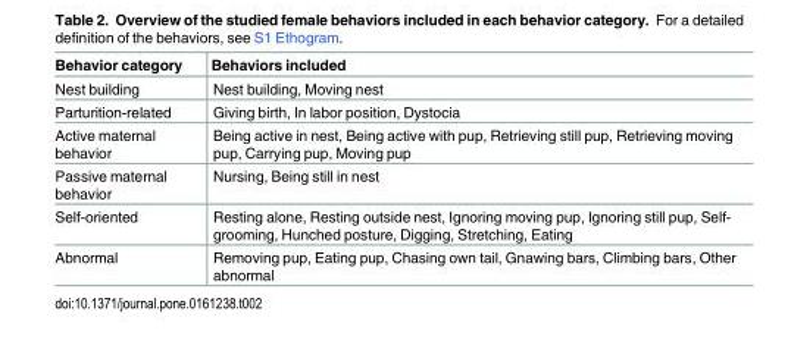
<table><thead><tr><td>Behavior category</td><td>Behaviors included</td></tr></thead><tbody><tr><td>Nest building</td><td>Nest building, Moving nest</td></tr><tr><td>Parturition-related</td><td>Giving birth, In labor position, Dystocia</td></tr><tr><td>Active maternal behavior</td><td>Being active in nest, Being active with pup, Retrieving still pup, Retrieving moving pup, Carrying pup, Moving pup</td></tr><tr><td>Passive maternal behavior</td><td>Nursing, Being still in nest</td></tr><tr><td>Self-oriented</td><td>Resting alone, Resting outside nest, Ignoring moving pup, Ignoring still pup, Self- grooming, Hunched posture, Digging, Stretching, Eating</td></tr><tr><td>Abnormal</td><td>Removing pup, Eating pup, Chasing own tail, Gnawing bars, Climbing bars, Other abnormal</td></tr></tbody></table>